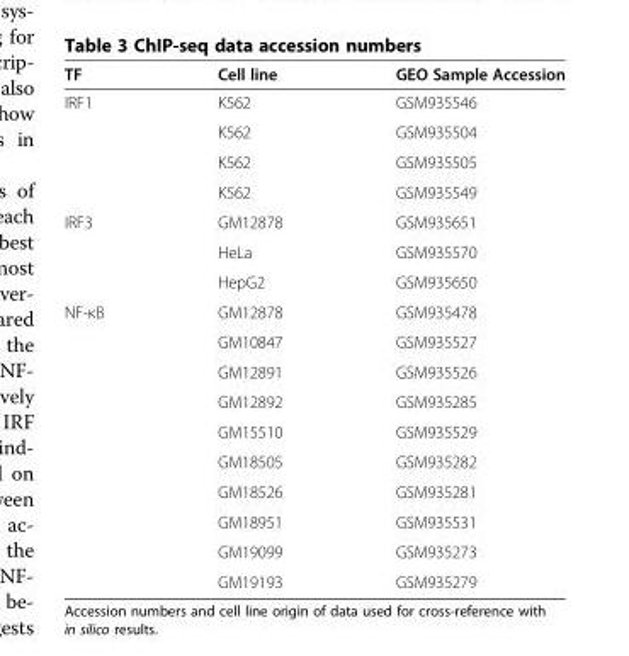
<table><thead><tr><td>TF</td><td>Cell line</td><td>GEO Sample Accession</td></tr></thead><tbody><tr><td rowspan="4">IRF1</td><td>K562</td><td>GSM935546</td></tr><tr><td>K562</td><td>GSM935504</td></tr><tr><td>K562</td><td>GSM935505</td></tr><tr><td>K562</td><td>GSM935549</td></tr><tr><td rowspan="3">IRF3</td><td>GM12878</td><td>GSM935651</td></tr><tr><td>HeLa</td><td>GSM935570</td></tr><tr><td>HepG2</td><td>GSM935650</td></tr><tr><td rowspan="10">NF-κB</td><td>GM12878</td><td>GSM935478</td></tr><tr><td>GM10847</td><td>GSM935527</td></tr><tr><td>GM12891</td><td>GSM935526</td></tr><tr><td>GM12892</td><td>GSM935285</td></tr><tr><td>GM15510</td><td>GSM935529</td></tr><tr><td>GM18505</td><td>GSM935282</td></tr><tr><td>GM18526</td><td>GSM935281</td></tr><tr><td>GM18951</td><td>GSM935531</td></tr><tr><td>GM19099</td><td>GSM935273</td></tr><tr><td>GM19193</td><td>GSM935279</td></tr></tbody></table>